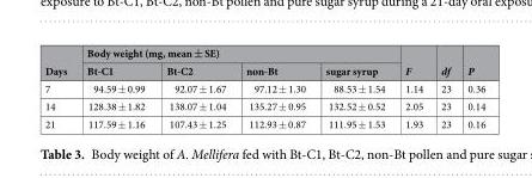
<table><thead><tr><td rowspan="2">Days</td><td colspan="4">Body weight (mg, mean ± SE)</td><td rowspan="2">F</td><td rowspan="2">df</td><td rowspan="2">P</td></tr><tr><td>Bt-C1</td><td>Bt-C2</td><td>non-Bt</td><td>sugar syrup</td></tr></thead><tbody><tr><td>7</td><td>94.59 ± 0.99</td><td>92.07 ± 1.67</td><td>97.12 ± 1.30</td><td>88.53 ± 1.54</td><td>1.14</td><td>23</td><td>0.36</td></tr><tr><td>14</td><td>128.38 ± 1.82</td><td>138.07 ± 1.04</td><td>135.27 ± 0.95</td><td>132.52 ± 0.52</td><td>2.05</td><td>23</td><td>0.14</td></tr><tr><td>21</td><td>117.59 ± 1.16</td><td>107.43 ± 1.25</td><td>112.93 ± 0.87</td><td>111.95 ± 1.53</td><td>1.93</td><td>23</td><td>0.16</td></tr></tbody></table>